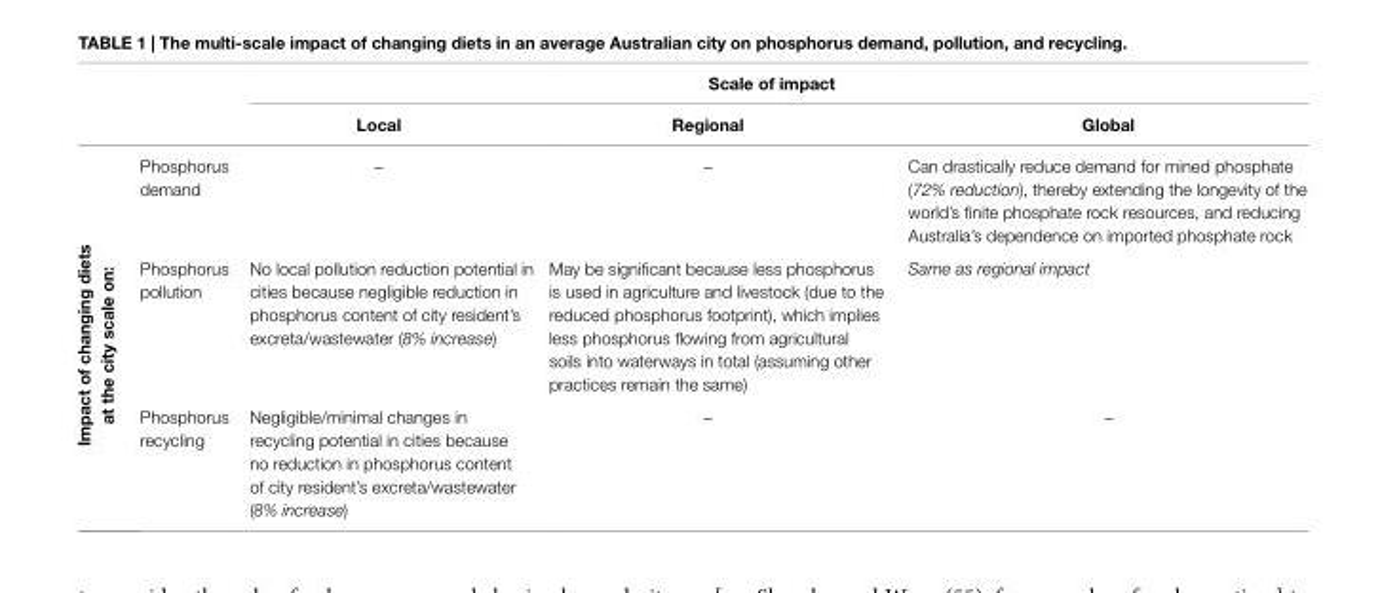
<table><thead><tr><td rowspan="2"></td><td rowspan="2"></td><td colspan="3">scale of impact</td></tr><tr><td>Local</td><td>regional</td><td>Global</td></tr></thead><tbody><tr><td rowspan="3">impact of changing diets at the city scale on:</td><td>Phosphorus demand</td><td>–</td><td>–</td><td>Can drastically reduce demand for mined phosphate (72% reduction), thereby extending the longevity of the world’s finite phosphate rock resources, and reducing Australia’s dependence on imported phosphate rock</td></tr><tr><td>Phosphorus pollution</td><td>No local pollution reduction potential in cities because negligible reduction in phosphorus content of city resident’s excreta/wastewater (8% increase)</td><td>May be significant because less phosphorus is used in agriculture and livestock (due to the reduced phosphorus footprint), which implies less phosphorus flowing from agricultural soils into waterways in total (assuming other practices remain the same)</td><td>Same as regional impact</td></tr><tr><td>Phosphorus recycling</td><td>Negligible/minimal changes in recycling potential in cities because no reduction in phosphorus content of city resident’s excreta/wastewater (8% increase)</td><td>–</td><td>–</td></tr></tbody></table>